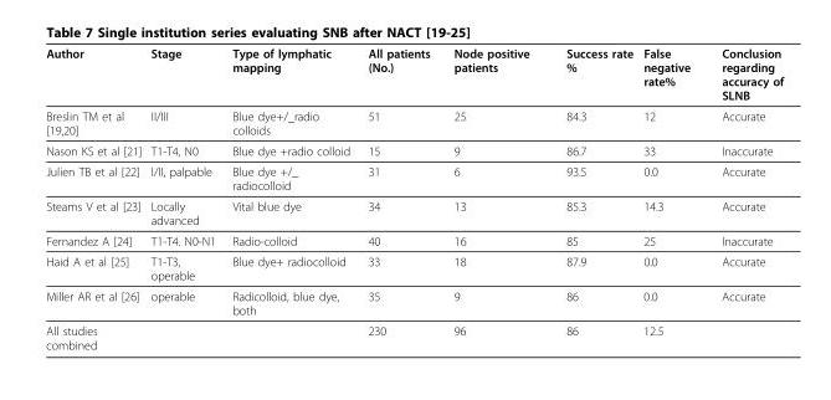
<table><thead><tr><td>Author</td><td>Stage</td><td>Type of lymphatic mapping</td><td>All patients (No.)</td><td>Node positive patients</td><td>Success rate %</td><td>False negative rate%</td><td>Conclusion regarding accuracy of SLNB</td></tr></thead><tbody><tr><td>Breslin TM et al [19,20]</td><td>II/III</td><td>Blue dye+/_radio colloids</td><td>51</td><td>25</td><td>84.3</td><td>12</td><td>Accurate</td></tr><tr><td>Nason KS et al [21]</td><td>T1-T4, N0</td><td>Blue dye +radio colloid</td><td>15</td><td>9</td><td>86.7</td><td>33</td><td>Inaccurate</td></tr><tr><td>Julien TB et al [22]</td><td>I/II, palpable</td><td>Blue dye +/_ radiocolloid</td><td>31</td><td>6</td><td>93.5</td><td>0.0</td><td>Accurate</td></tr><tr><td>Steams V et al [23]</td><td>Locally advanced</td><td>Vital blue dye</td><td>34</td><td>13</td><td>85.3</td><td>14.3</td><td>Accurate</td></tr><tr><td>Fernandez A [24]</td><td>T1-T4. N0-N1</td><td>Radio-colloid</td><td>40</td><td>16</td><td>85</td><td>25</td><td>Inaccurate</td></tr><tr><td>Haid A et al [25]</td><td>T1-T3, operable</td><td>Blue dye+ radiocolloid</td><td>33</td><td>18</td><td>87.9</td><td>0.0</td><td>Accurate</td></tr><tr><td>Miller AR et al [26]</td><td>operable</td><td>Radicolloid, blue dye, both</td><td>35</td><td>9</td><td>86</td><td>0.0</td><td>Accurate</td></tr><tr><td>All studies combined</td><td></td><td></td><td>230</td><td>96</td><td>86</td><td>12.5</td><td></td></tr></tbody></table>